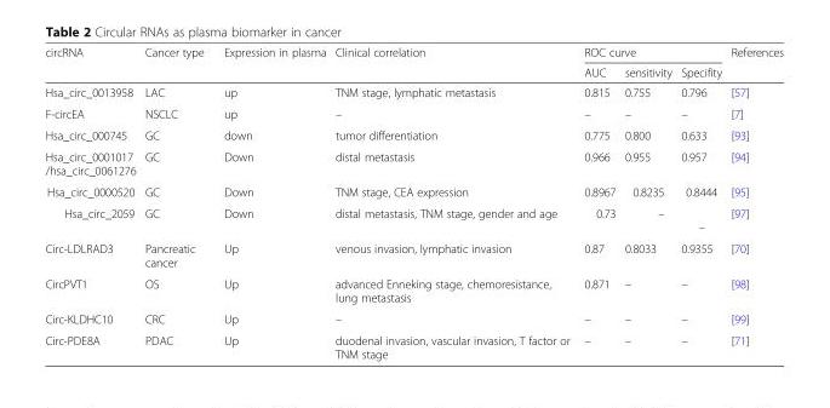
<table><thead><tr><td rowspan="2">circRNA</td><td rowspan="2">Cancer type</td><td rowspan="2">Expression in plasma</td><td rowspan="2">Clinical correlation</td><td colspan="3">ROC curve</td><td rowspan="2">References</td></tr><tr><td>AUC</td><td>sensitivity</td><td>Specifity</td></tr></thead><tbody><tr><td>Hsa_circ_0013958</td><td>LAC</td><td>up</td><td>TNM stage, lymphatic metastasis</td><td>0.815</td><td>0.755</td><td>0.796</td><td>[57]</td></tr><tr><td>F-circEA</td><td>NSCLC</td><td>up</td><td>–</td><td>–</td><td>–</td><td>–</td><td>[7]</td></tr><tr><td>Hsa_circ_000745</td><td>GC</td><td>down</td><td>tumor differentiation</td><td>0.775</td><td>0.800</td><td>0.633</td><td>[93]</td></tr><tr><td>Hsa_circ_0001017 /hsa_circ_0061276</td><td>GC</td><td>Down</td><td>distal metastasis</td><td>0.966</td><td>0.955</td><td>0.957</td><td>[94]</td></tr><tr><td>Hsa_circ_0000520</td><td>GC</td><td>Down</td><td>TNM stage, CEA expression</td><td>0.8967</td><td>0.8235</td><td>0.8444</td><td>[95]</td></tr><tr><td>Hsa_circ_2059</td><td>GC</td><td>Down</td><td>distal metastasis, TNM stage, gender and age</td><td>0.73</td><td>–</td><td>–</td><td>[97]</td></tr><tr><td>Circ-LDLRAD3</td><td>Pancreatic cancer</td><td>Up</td><td>venous invasion, lymphatic invasion</td><td>0.87</td><td>0.8033</td><td>0.9355</td><td>[70]</td></tr><tr><td>CircPVT1</td><td>OS</td><td>Up</td><td>advanced Enneking stage, chemoresistance, lung metastasis</td><td>0.871</td><td>–</td><td>–</td><td>[98]</td></tr><tr><td>Circ-KLDHC10</td><td>CRC</td><td>Up</td><td>–</td><td>–</td><td>–</td><td>–</td><td>[99]</td></tr><tr><td>Circ-PDE8A</td><td>PDAC</td><td>Up</td><td>duodenal invasion, vascular invasion, T factor or TNM stage</td><td>–</td><td>–</td><td>–</td><td>[71]</td></tr></tbody></table>